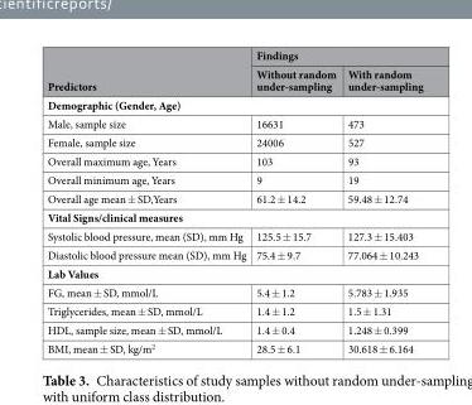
<table><thead><tr><td rowspan="2">Predictors</td><td colspan="2">Findings</td></tr><tr><td>Without random under-sampling</td><td>With random under-sampling</td></tr></thead><tbody><tr><td colspan="3">Demographic (Gender, Age)</td></tr><tr><td>Male, sample size</td><td>16631</td><td>473</td></tr><tr><td>Female, sample size</td><td>24006</td><td>527</td></tr><tr><td>Overall maximum age, Years</td><td>103</td><td>93</td></tr><tr><td>Overall minimum age, Years</td><td>9</td><td>19</td></tr><tr><td>Overall age mean ± SD,Years</td><td>61.2 ± 14.2</td><td>59.48 ± 12.74</td></tr><tr><td colspan="3">Vital Signs/clinical measures</td></tr><tr><td>Systolic blood pressure, mean (SD), mm Hg</td><td>125.5 ± 15.7</td><td>127.3 ± 15.403</td></tr><tr><td>Diastolic blood pressure mean (SD), mm Hg</td><td>75.4 ± 9.7</td><td>77.064 ± 10.243</td></tr><tr><td colspan="3">Lab Values</td></tr><tr><td>FG, mean ± SD, mmol/L</td><td>5.4 ± 1.2</td><td>5.783 ± 1.935</td></tr><tr><td>Triglycerides, mean ± SD, mmol/L</td><td>1.4 ± 1.2</td><td>1.5 ± 1.31</td></tr><tr><td>HDL, sample size, mean ± SD, mmol/L</td><td>1.4 ± 0.4</td><td>1.248 ± 0.399</td></tr><tr><td>BMI, mean ± SD, kg/m<sup>2</sup></td><td>28.5 ± 6.1</td><td>30.618 ± 6.164</td></tr></tbody></table>